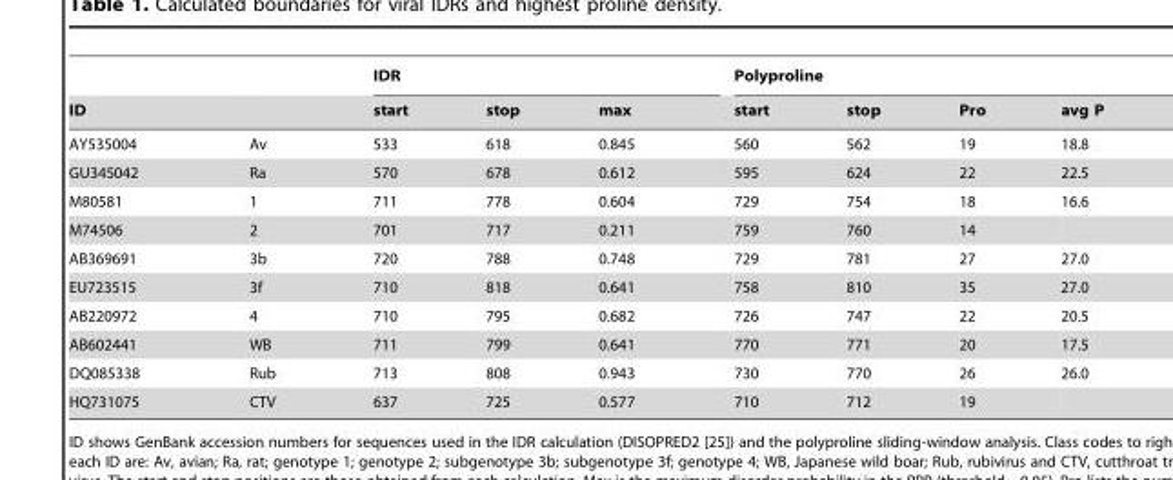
<table><thead><tr><td rowspan="2">ID</td><td rowspan="2"></td><td colspan="3">IDR</td><td colspan="4">Polyproline</td></tr><tr><td>start</td><td>stop</td><td>max</td><td>start</td><td>stop</td><td>Pro</td><td>avg P</td></tr></thead><tbody><tr><td>AY535004</td><td>Av</td><td>533</td><td>618</td><td>0.845</td><td>560</td><td>562</td><td>19</td><td>18.8</td></tr><tr><td>GU345042</td><td>Ra</td><td>570</td><td>678</td><td>0.612</td><td>595</td><td>624</td><td>22</td><td>22.5</td></tr><tr><td>M80581</td><td>1</td><td>711</td><td>778</td><td>0.604</td><td>729</td><td>754</td><td>18</td><td>16.6</td></tr><tr><td>M74506</td><td>2</td><td>701</td><td>717</td><td>0.211</td><td>759</td><td>760</td><td>14</td><td></td></tr><tr><td>AB369691</td><td>3b</td><td>720</td><td>788</td><td>0.748</td><td>729</td><td>781</td><td>27</td><td>27.0</td></tr><tr><td>EU723515</td><td>3f</td><td>710</td><td>818</td><td>0.641</td><td>758</td><td>810</td><td>35</td><td>27.0</td></tr><tr><td>AB220972</td><td>4</td><td>710</td><td>795</td><td>0.682</td><td>726</td><td>747</td><td>22</td><td>20.5</td></tr><tr><td>AB602441</td><td>WB</td><td>711</td><td>799</td><td>0.641</td><td>770</td><td>771</td><td>20</td><td>17.5</td></tr><tr><td>DQ085338</td><td>Rub</td><td>713</td><td>808</td><td>0.943</td><td>730</td><td>770</td><td>26</td><td>26.0</td></tr><tr><td>HQ731075</td><td>CTV</td><td>637</td><td>725</td><td>0.577</td><td>710</td><td>712</td><td>19</td><td></td></tr></tbody></table>